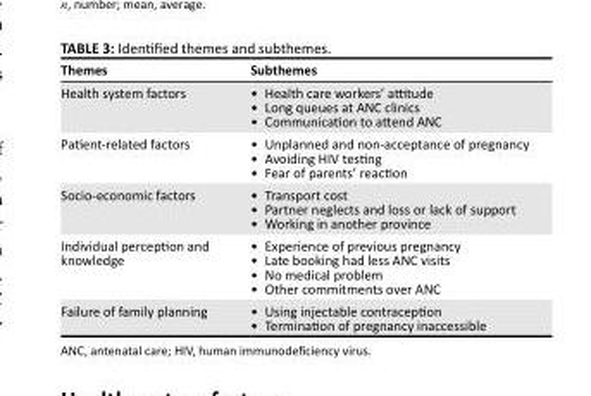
<table><thead><tr><td>Themes</td><td>Subthemes</td></tr></thead><tbody><tr><td>Health system factors</td><td>• Health care workers’ attitude • Long queues at ANC clinics • Communication to attend ANC</td></tr><tr><td>Patient-related factors</td><td>• Unplanned and non-acceptance of pregnancy • Avoiding HIV testing • Fear of parents’ reaction</td></tr><tr><td>Socio-economic factors</td><td>• Transport cost • Partner neglects and loss or lack of support • Working in another province</td></tr><tr><td>Individual perception and knowledge</td><td>• Experience of previous pregnancy • Late booking had less ANC visits • No medical problem • Other commitments over ANC</td></tr><tr><td>Failure of family planning</td><td>• Using injectable contraception • Termination of pregnancy inaccessible</td></tr></tbody></table>